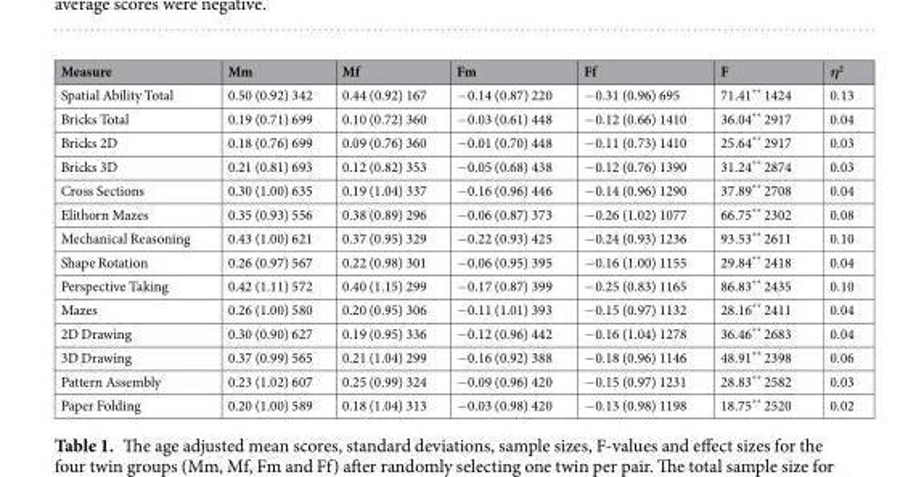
<table><thead><tr><td>Measure</td><td>Mm</td><td>Mf</td><td>Fm</td><td>Ff</td><td>F</td><td>η<sup>2</sup></td></tr></thead><tbody><tr><td>Spatial Ability Total</td><td>0.50 (0.92) 342</td><td>0.44 (0.92) 167</td><td>−0.14 (0.87) 220</td><td>−0.31 (0.96) 695</td><td>71.41** 1424</td><td>0.13</td></tr><tr><td>Bricks Total</td><td>0.19 (0.71) 699</td><td>0.10 (0.72) 360</td><td>−0.03 (0.61) 448</td><td>−0.12 (0.66) 1410</td><td>36.04** 2917</td><td>0.04</td></tr><tr><td>Bricks 2D</td><td>0.18 (0.76) 699</td><td>0.09 (0.76) 360</td><td>−0.01 (0.70) 448</td><td>−0.11 (0.73) 1410</td><td>25.64** 2917</td><td>0.03</td></tr><tr><td>Bricks 3D</td><td>0.21 (0.81) 693</td><td>0.12 (0.82) 353</td><td>−0.05 (0.68) 438</td><td>−0.12 (0.76) 1390</td><td>31.24** 2874</td><td>0.03</td></tr><tr><td>Cross Sections</td><td>0.30 (1.00) 635</td><td>0.19 (1.04) 337</td><td>−0.16 (0.96) 446</td><td>−0.14 (0.96) 1290</td><td>37.89** 2708</td><td>0.04</td></tr><tr><td>Elithorn Mazes</td><td>0.35 (0.93) 556</td><td>0.38 (0.89) 296</td><td>−0.06 (0.87) 373</td><td>−0.26 (1.02) 1077</td><td>66.75** 2302</td><td>0.08</td></tr><tr><td>Mechanical Reasoning</td><td>0.43 (1.00) 621</td><td>0.37 (0.95) 329</td><td>−0.22 (0.93) 425</td><td>−0.24 (0.93) 1236</td><td>93.53** 2611</td><td>0.10</td></tr><tr><td>Shape Rotation</td><td>0.26 (0.97) 567</td><td>0.22 (0.98) 301</td><td>−0.06 (0.95) 395</td><td>−0.16 (1.00) 1155</td><td>29.84** 2418</td><td>0.04</td></tr><tr><td>Perspective Taking</td><td>0.42 (1.11) 572</td><td>0.40 (1.15) 299</td><td>−0.17 (0.87) 399</td><td>−0.25 (0.83) 1165</td><td>86.83** 2435</td><td>0.10</td></tr><tr><td>Mazes</td><td>0.26 (1.00) 580</td><td>0.20 (0.95) 306</td><td>−0.11 (1.01) 393</td><td>−0.15 (0.97) 1132</td><td>28.16** 2411</td><td>0.04</td></tr><tr><td>2D Drawing</td><td>0.30 (0.90) 627</td><td>0.19 (0.95) 336</td><td>−0.12 (0.96) 442</td><td>−0.16 (1.04) 1278</td><td>36.46** 2683</td><td>0.04</td></tr><tr><td>3D Drawing</td><td>0.37 (0.99) 565</td><td>0.21 (1.04) 299</td><td>−0.16 (0.92) 388</td><td>−0.18 (0.96) 1146</td><td>48.91** 2398</td><td>0.06</td></tr><tr><td>Pattern Assembly</td><td>0.23 (1.02) 607</td><td>0.25 (0.99) 324</td><td>−0.09 (0.96) 420</td><td>−0.15 (0.97) 1231</td><td>28.83** 2582</td><td>0.03</td></tr><tr><td>Paper Folding</td><td>0.20 (1.00) 589</td><td>0.18 (1.04) 313</td><td>−0.03 (0.98) 420</td><td>−0.13 (0.98) 1198</td><td>18.75** 2520</td><td>0.02</td></tr></tbody></table>